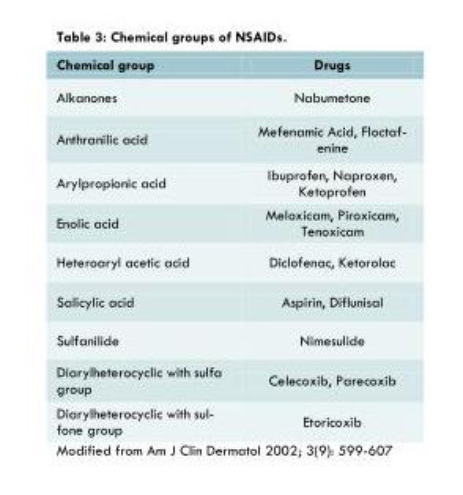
<table><thead><tr><td>Chemical group</td><td>Drugs</td></tr></thead><tbody><tr><td>Alkanones</td><td>Nabumetone</td></tr><tr><td>Anthranilic acid</td><td>Mefenamic Acid, Floctaf- enine</td></tr><tr><td>Arylpropionic acid</td><td>Ibuprofen, Naproxen, Ketoprofen</td></tr><tr><td>Enolic acid</td><td>Meloxicam, Piroxicam, Tenoxicam</td></tr><tr><td>Heteroaryl acetic acid</td><td>Diclofenac, Ketorolac</td></tr><tr><td>Salicylic acid</td><td>Aspirin, Diflunisal</td></tr><tr><td>Sulfanilide</td><td>Nimesulide</td></tr><tr><td>Diarylheterocyclic with sulfa group</td><td>Celecoxib, Parecoxib</td></tr><tr><td>Diarylheterocyclic with sul- fone group</td><td>Etoricoxib</td></tr></tbody></table>